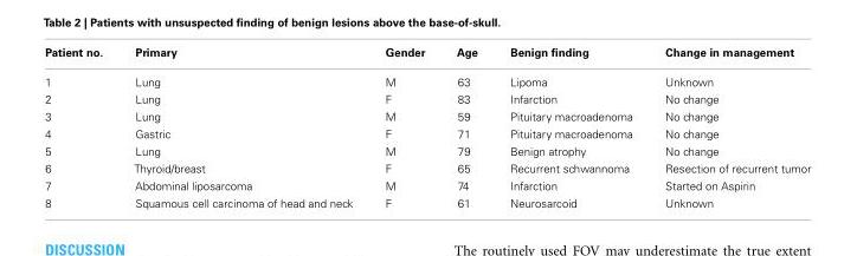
<table><thead><tr><td>Patient no.</td><td>Primary</td><td>Gender</td><td>Age</td><td>Benign finding</td><td>Change in management</td></tr></thead><tbody><tr><td>1</td><td>Lung</td><td>M</td><td>63</td><td>Lipoma</td><td>Unknown</td></tr><tr><td>2</td><td>Lung</td><td>F</td><td>83</td><td>Infarction</td><td>No change</td></tr><tr><td>3</td><td>Lung</td><td>M</td><td>59</td><td>Pituitary macroadenoma</td><td>No change</td></tr><tr><td>4</td><td>Gastric</td><td>F</td><td>71</td><td>Pituitary macroadenoma</td><td>No change</td></tr><tr><td>5</td><td>Lung</td><td>M</td><td>79</td><td>Benign atrophy</td><td>No change</td></tr><tr><td>6</td><td>Thyroid/breast</td><td>F</td><td>65</td><td>Recurrent schwannoma</td><td>Resection of recurrent tumor</td></tr><tr><td>7</td><td>Abdominal liposarcoma</td><td>M</td><td>74</td><td>Infarction</td><td>Started on Aspirin</td></tr><tr><td>8</td><td>Squamous cell carcinoma of head and neck</td><td>F</td><td>61</td><td>Neurosarcoid</td><td>Unknown</td></tr></tbody></table>